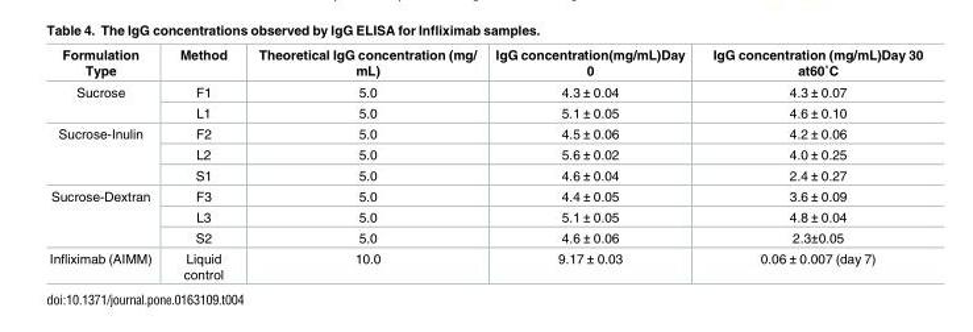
<table><thead><tr><td>Formulation Type</td><td>Method</td><td>Theoretical IgG concentration (mg/ mL)</td><td>IgG concentration(mg/mL)Day 0</td><td>IgG concentration (mg/mL)Day 30 at60˚C</td></tr></thead><tbody><tr><td rowspan="2">Sucrose</td><td>F1</td><td>5.0</td><td>4.3 ± 0.04</td><td>4.3 ± 0.07</td></tr><tr><td>L1</td><td>5.0</td><td>5.1 ± 0.05</td><td>4.6 ± 0.10</td></tr><tr><td rowspan="3">Sucrose-Inulin</td><td>F2</td><td>5.0</td><td>4.5 ± 0.06</td><td>4.2 ± 0.06</td></tr><tr><td>L2</td><td>5.0</td><td>5.6 ± 0.02</td><td>4.0 ± 0.25</td></tr><tr><td>S1</td><td>5.0</td><td>4.6 ± 0.04</td><td>2.4 ± 0.27</td></tr><tr><td rowspan="3">Sucrose-Dextran</td><td>F3</td><td>5.0</td><td>4.4 ± 0.05</td><td>3.6 ± 0.09</td></tr><tr><td>L3</td><td>5.0</td><td>5.1 ± 0.05</td><td>4.8 ± 0.04</td></tr><tr><td>S2</td><td>5.0</td><td>4.6 ± 0.06</td><td>2.3±0.05</td></tr><tr><td>Infliximab (AIMM)</td><td>Liquid control</td><td>10.0</td><td>9.17 ± 0.03</td><td>0.06 ± 0.007 (day 7)</td></tr></tbody></table>